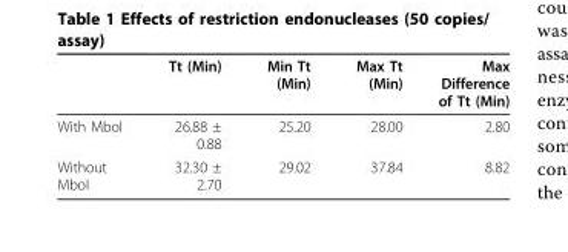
<table><thead><tr><td></td><td>Tt (Min)</td><td>Min Tt (Min)</td><td>Max Tt (Min)</td><td>Max Difference of Tt (Min)</td></tr></thead><tbody><tr><td>With MboI</td><td>26.88 ± 0.88</td><td>25.20</td><td>28.00</td><td>2.80</td></tr><tr><td>Without MboI</td><td>32.30 ± 2.70</td><td>29.02</td><td>37.84</td><td>8.82</td></tr></tbody></table>